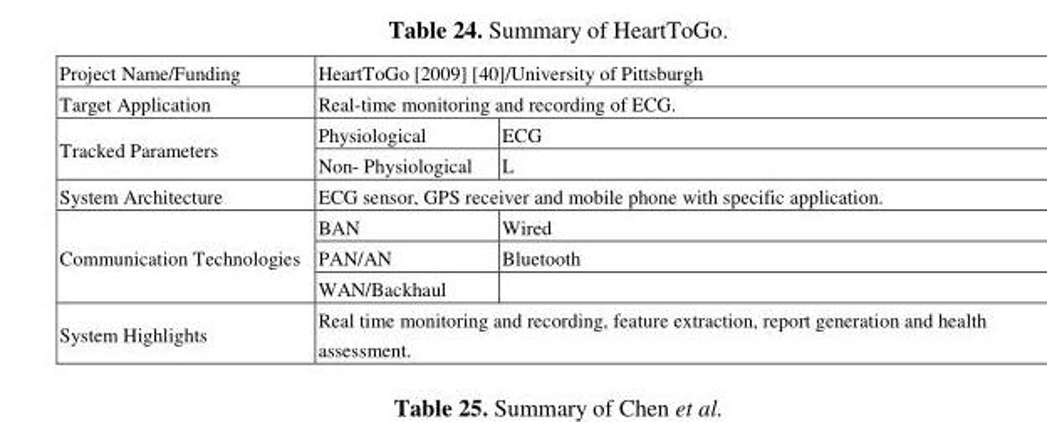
<table><tbody><tr><td>Project Name/Funding</td><td colspan="2">HeartToGo [2009] [40]/University of Pittsburgh</td></tr><tr><td>Target Application</td><td colspan="2">Real-time monitoring and recording of ECG.</td></tr><tr><td rowspan="2">Tracked Parameters</td><td>Physiological</td><td>ECG</td></tr><tr><td>Non- Physiological</td><td>L</td></tr><tr><td>System Architecture</td><td colspan="2">ECG sensor, GPS receiver and mobile phone with specific application.</td></tr><tr><td rowspan="3">Communication Technologies</td><td>BAN</td><td>Wired</td></tr><tr><td>PAN/AN</td><td>Bluetooth</td></tr><tr><td>WAN/Backhaul</td><td></td></tr><tr><td>System Highlights</td><td colspan="2">Real time monitoring and recording, feature extraction, report generation and health assessment.</td></tr></tbody></table>